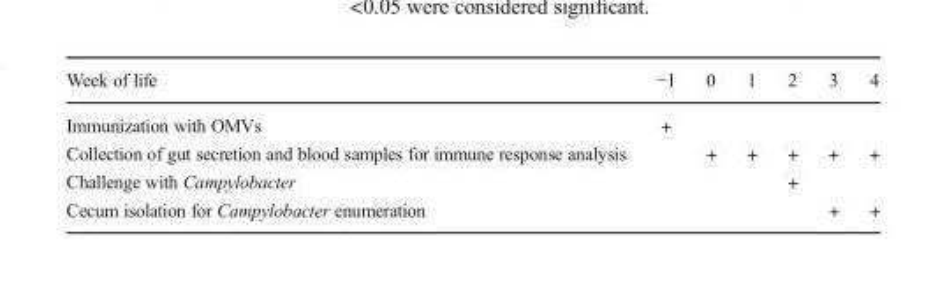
<table><thead><tr><td>Week of life</td><td>−1</td><td>0</td><td>1</td><td>2</td><td>3</td><td>4</td></tr></thead><tbody><tr><td>Immunization with OMVs</td><td>+</td><td></td><td></td><td></td><td></td><td></td></tr><tr><td>Collection of gut secretion and blood samples for immune response analysis</td><td></td><td>+</td><td>+</td><td>+</td><td>+</td><td>+</td></tr><tr><td>Challenge with Campylobacter</td><td></td><td></td><td></td><td>+</td><td></td><td></td></tr><tr><td>Cecum isolation for Campylobacter enumeration</td><td></td><td></td><td></td><td></td><td>+</td><td>+</td></tr></tbody></table>